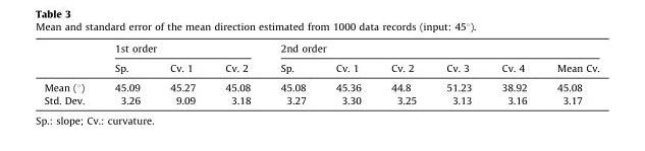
<table><thead><tr><td rowspan="2"></td><td colspan="3">1st order</td><td colspan="6">2nd order</td></tr><tr><td>Sp.</td><td>Cv. 1</td><td>Cv. 2</td><td>Sp.</td><td>Cv. 1</td><td>Cv. 2</td><td>Cv. 3</td><td>Cv. 4</td><td>Mean Cv.</td></tr></thead><tbody><tr><td>Mean (°)</td><td>45.09</td><td>45.27</td><td>45.08</td><td>45.08</td><td>45.36</td><td>44.8</td><td>51.23</td><td>38.92</td><td>45.08</td></tr><tr><td>Std. Dev.</td><td>3.26</td><td>9.09</td><td>3.18</td><td>3.27</td><td>3.30</td><td>3.25</td><td>3.13</td><td>3.16</td><td>3.17</td></tr></tbody></table>